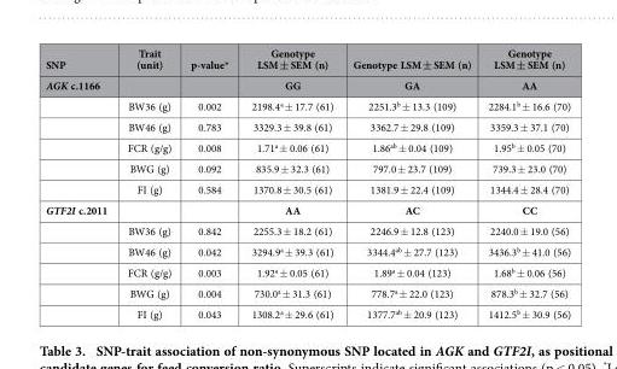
<table><thead><tr><td rowspan="2">SNP AGK c.1166</td><td rowspan="2">Trait (unit)</td><td rowspan="2">p-value*</td><td rowspan="2">Genotype LSM ± SEM (n) GG</td><td rowspan="2">Genotype LSM ± SEM (n) GA</td><td rowspan="2">Genotype LSM ± SEM (n) AA</td></tr><tr></tr></thead><tbody><tr><td></td><td>BW36 (g)</td><td>0.002</td><td>2198.4<sup>a</sup> ± 17.7 (61)</td><td>2251.3<sup>b</sup> ± 13.3 (109)</td><td>2284.1<sup>b</sup> ± 16.6 (70)</td></tr><tr><td></td><td>BW46 (g)</td><td>0.783</td><td>3329.3 ± 39.8 (61)</td><td>3362.7 ± 29.8 (109)</td><td>3359.3 ± 37.1 (70)</td></tr><tr><td></td><td>FCR (g/g)</td><td>0.008</td><td>1.71<sup>a</sup> ± 0.06 (61)</td><td>1.86<sup>ab</sup> ± 0.04 (109)</td><td>1.95<sup>b</sup> ± 0.05 (70)</td></tr><tr><td></td><td>BWG (g)</td><td>0.092</td><td>835.9 ± 32.3 (61)</td><td>797.0 ± 23.7 (109)</td><td>739.3 ± 23.0 (70)</td></tr><tr><td></td><td>FI (g)</td><td>0.584</td><td>1370.8 ± 30.5 (61)</td><td>1381.9 ± 22.4 (109)</td><td>1344.4 ± 28.4 (70)</td></tr><tr><td rowspan="6">GTF2I c.2011</td><td></td><td></td><td>AA</td><td>AC</td><td>CC</td></tr><tr><td>BW36 (g)</td><td>0.842</td><td>2255.3 ± 18.2 (61)</td><td>2246.9 ± 12.8 (123)</td><td>2240.0 ± 19.0 (56)</td></tr><tr><td>BW46 (g)</td><td>0.042</td><td>3294.9<sup>a</sup> ± 39.3 (61)</td><td>3344.4<sup>ab</sup> ± 27.7 (123)</td><td>3436.3<sup>b</sup> ± 41.0 (56)</td></tr><tr><td>FCR (g/g)</td><td>0.003</td><td>1.92<sup>a</sup> ± 0.05 (61)</td><td>1.89<sup>a</sup> ± 0.04 (123)</td><td>1.68<sup>b</sup> ± 0.06 (56)</td></tr><tr><td>BWG (g)</td><td>0.004</td><td>730.0<sup>a</sup> ± 31.3 (61)</td><td>778.7<sup>a</sup> ± 22.0 (123)</td><td>878.3<sup>b</sup> ± 32.7 (56)</td></tr><tr><td>FI (g)</td><td>0.043</td><td>1308.2<sup>a</sup> ± 29.6 (61)</td><td>1377.7<sup>ab</sup> ± 20.9 (123)</td><td>1412.5<sup>b</sup> ± 30.9 (56)</td></tr></tbody></table>